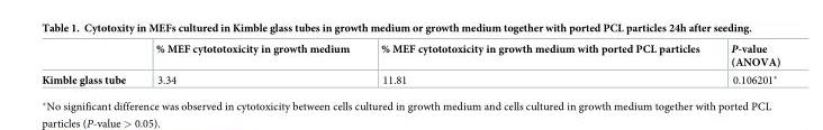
<table><thead><tr><td></td><td>% MEF cytototoxicity in growth medium</td><td>% MEF cytototoxicity in growth medium with ported PCL particles</td><td>P-value (ANOVA)</td></tr></thead><tbody><tr><td>Kimble glass tube</td><td>3.34</td><td>11.81</td><td>0.106201*</td></tr></tbody></table>